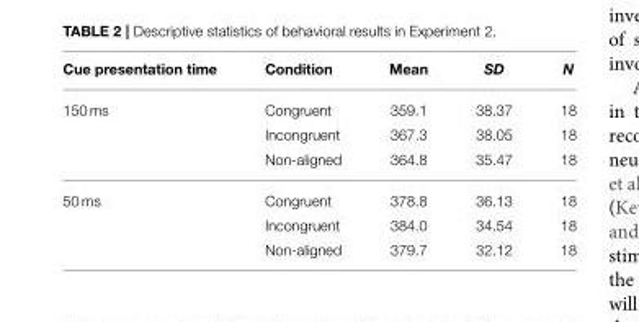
<table><thead><tr><td>Cue presentation time</td><td>Condition</td><td>Mean</td><td>SD</td><td>N</td></tr></thead><tbody><tr><td rowspan="3">150 ms</td><td>Congruent</td><td>359.1</td><td>38.37</td><td>18</td></tr><tr><td>Incongruent</td><td>367.3</td><td>38.05</td><td>18</td></tr><tr><td>Non-aligned</td><td>364.8</td><td>35.47</td><td>18</td></tr><tr><td rowspan="3">50 ms</td><td>Congruent</td><td>378.8</td><td>36.13</td><td>18</td></tr><tr><td>Incongruent</td><td>384.0</td><td>34.54</td><td>18</td></tr><tr><td>Non-aligned</td><td>379.7</td><td>32.12</td><td>18</td></tr></tbody></table>